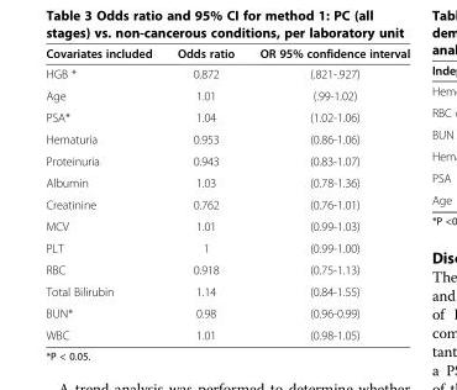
<table><thead><tr><td>Covariates included</td><td>Odds ratio</td><td>OR 95% confidence interval</td></tr></thead><tbody><tr><td>HGB *</td><td>0.872</td><td>(.821-.927)</td></tr><tr><td>Age</td><td>1.01</td><td>(.99-1.02)</td></tr><tr><td>PSA*</td><td>1.04</td><td>(1.02-1.06)</td></tr><tr><td>Hematuria</td><td>0.953</td><td>(0.86-1.06)</td></tr><tr><td>Proteinuria</td><td>0.943</td><td>(0.83-1.07)</td></tr><tr><td>Albumin</td><td>1.03</td><td>(0.78-1.36)</td></tr><tr><td>Creatinine</td><td>0.762</td><td>(0.76-1.01)</td></tr><tr><td>MCV</td><td>1.01</td><td>(0.99-1.03)</td></tr><tr><td>PLT</td><td>1</td><td>(0.99-1.00)</td></tr><tr><td>RBC</td><td>0.918</td><td>(0.75-1.13)</td></tr><tr><td>Total Bilirubin</td><td>1.14</td><td>(0.84-1.55)</td></tr><tr><td>BUN*</td><td>0.98</td><td>(0.96-0.99)</td></tr><tr><td>WBC</td><td>1.01</td><td>(0.98-1.05)</td></tr></tbody></table>